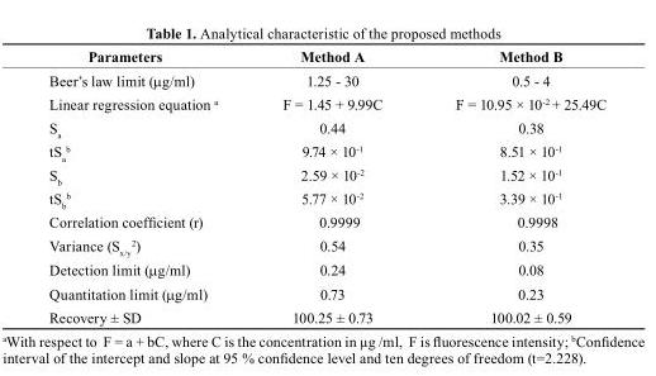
<table><thead><tr><td>Parameters</td><td>Method A</td><td>Method B</td></tr></thead><tbody><tr><td>Beer’s law limit (µg/ml)</td><td>1.25 - 30</td><td>0.5 - 4</td></tr><tr><td>Linear regression equation a</td><td>F = 1.45 + 9.99C</td><td>F = 10.95 × 10<sup>-2</sup> + 25.49C</td></tr><tr><td>S<sub>a</sub></td><td>0.44</td><td>0.38</td></tr><tr><td>tS<sub>a</sub> <sup>b</sup></td><td>9.74 × 10<sup>-1</sup></td><td>8.51 × 10<sup>-1</sup></td></tr><tr><td>S<sub>b</sub></td><td>2.59 × 10<sup>-2</sup></td><td>1.52 × 10<sup>-1</sup></td></tr><tr><td>tS<sub>b</sub> <sup>b</sup></td><td>5.77 × 10<sup>-2</sup></td><td>3.39 × 10<sup>-1</sup></td></tr><tr><td>Correlation coefficient (r)</td><td>0.9999</td><td>0.9998</td></tr><tr><td>Variance (S<sub>x/y</sub> <sup>2</sup>)</td><td>0.54</td><td>0.35</td></tr><tr><td>Detection limit (µg/ml)</td><td>0.24</td><td>0.08</td></tr><tr><td>Quantitation limit (µg/ml)</td><td>0.73</td><td>0.23</td></tr><tr><td>Recovery ± SD</td><td>100.25 ± 0.73</td><td>100.02 ± 0.59</td></tr></tbody></table>